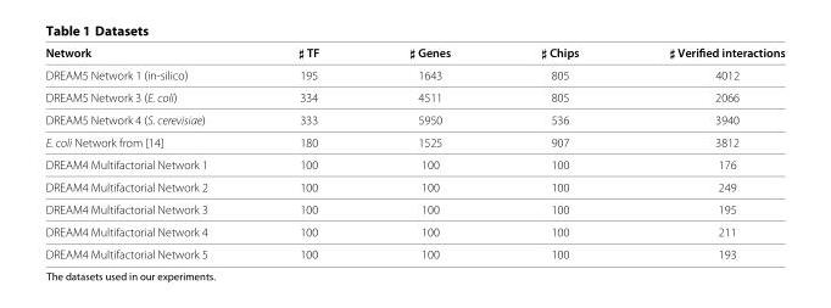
<table><thead><tr><td>Network</td><td>♯ TF</td><td>♯ Genes</td><td>♯ Chips</td><td>♯ Verified interactions</td></tr></thead><tbody><tr><td>DREAM5 Network 1 (in-silico)</td><td>195</td><td>1643</td><td>805</td><td>4012</td></tr><tr><td>DREAM5 Network 3 (E. coli)</td><td>334</td><td>4511</td><td>805</td><td>2066</td></tr><tr><td>DREAM5 Network 4 (S. cerevisiae)</td><td>333</td><td>5950</td><td>536</td><td>3940</td></tr><tr><td>E. coli Network from [14]</td><td>180</td><td>1525</td><td>907</td><td>3812</td></tr><tr><td>DREAM4 Multifactorial Network 1</td><td>100</td><td>100</td><td>100</td><td>176</td></tr><tr><td>DREAM4 Multifactorial Network 2</td><td>100</td><td>100</td><td>100</td><td>249</td></tr><tr><td>DREAM4 Multifactorial Network 3</td><td>100</td><td>100</td><td>100</td><td>195</td></tr><tr><td>DREAM4 Multifactorial Network 4</td><td>100</td><td>100</td><td>100</td><td>211</td></tr><tr><td>DREAM4 Multifactorial Network 5</td><td>100</td><td>100</td><td>100</td><td>193</td></tr></tbody></table>